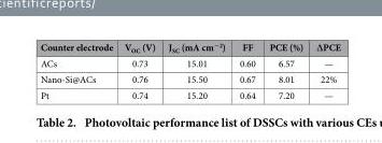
<table><thead><tr><td>Counter electrode</td><td>V<sub>OC</sub> (V)</td><td>J<sub>SC</sub> (mA cm<sup>−2</sup>)</td><td>FF</td><td>PCE (%)</td><td>∆PCE</td></tr></thead><tbody><tr><td>ACs</td><td>0.73</td><td>15.01</td><td>0.60</td><td>6.57</td><td>—</td></tr><tr><td>Nano-Si@ACs</td><td>0.76</td><td>15.50</td><td>0.67</td><td>8.01</td><td>22%</td></tr><tr><td>Pt</td><td>0.74</td><td>15.20</td><td>0.64</td><td>7.20</td><td>—</td></tr></tbody></table>